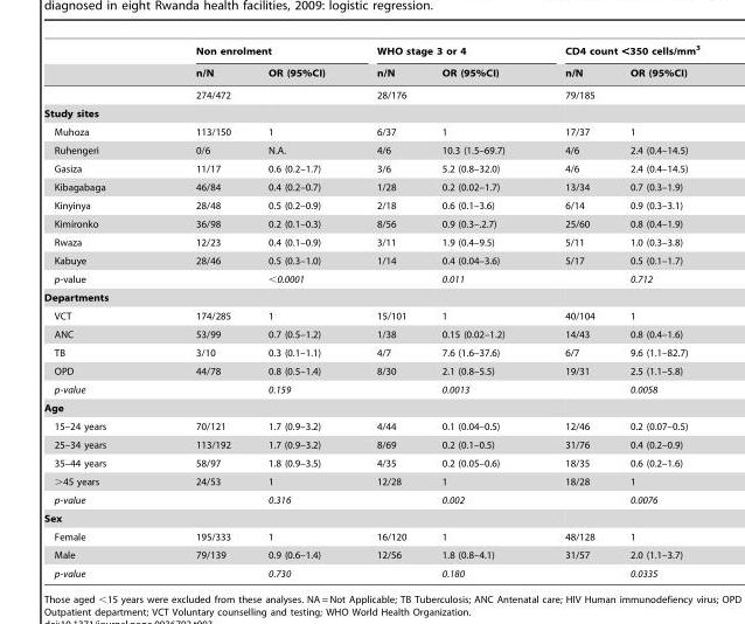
<table><thead><tr><td rowspan="2"></td><td colspan="2">Non enrolment</td><td colspan="2">WHO stage 3 or 4</td><td colspan="2">CD4 count &lt;350 cells/mm<sup>3</sup></td></tr><tr><td>n/N</td><td>OR (95%CI)</td><td>n/N</td><td>OR (95%CI)</td><td>n/N</td><td>OR (95%CI)</td></tr></thead><tbody><tr><td></td><td>274/472</td><td></td><td>28/176</td><td></td><td>79/185</td><td></td></tr><tr><td colspan="7">Study sites</td></tr><tr><td>Muhoza</td><td>113/150</td><td>1</td><td>6/37</td><td>1</td><td>17/37</td><td>1</td></tr><tr><td>Ruhengeri</td><td>0/6</td><td>N.A.</td><td>4/6</td><td>10.3 (1.5–69.7)</td><td>4/6</td><td>2.4 (0.4–14.5)</td></tr><tr><td>Gasiza</td><td>11/17</td><td>0.6 (0.2–1.7)</td><td>3/6</td><td>5.2 (0.8–32.0)</td><td>4/6</td><td>2.4 (0.4–14.5)</td></tr><tr><td>Kibagabaga</td><td>46/84</td><td>0.4 (0.2–0.7)</td><td>1/28</td><td>0.2 (0.02–1.7)</td><td>13/34</td><td>0.7 (0.3–1.9)</td></tr><tr><td>Kinyinya</td><td>28/48</td><td>0.5 (0.2–0.9)</td><td>2/18</td><td>0.6 (0.1–3.6)</td><td>6/14</td><td>0.9 (0.3–3.1)</td></tr><tr><td>Kimironko</td><td>36/98</td><td>0.2 (0.1–0.3)</td><td>8/56</td><td>0.9 (0.3–.2.7)</td><td>25/60</td><td>0.8 (0.4–1.9)</td></tr><tr><td>Rwaza</td><td>12/23</td><td>0.4 (0.1–0.9)</td><td>3/11</td><td>1.9 (0.4–9.5)</td><td>5/11</td><td>1.0 (0.3–3.8)</td></tr><tr><td>Kabuye</td><td>28/46</td><td>0.5 (0.3–1.0)</td><td>1/14</td><td>0.4 (0.04–3.6)</td><td>5/17</td><td>0.5 (0.1–1.7)</td></tr><tr><td>p-value</td><td></td><td>&lt;0.0001</td><td></td><td>0.011</td><td></td><td>0.712</td></tr><tr><td colspan="7">Departments</td></tr><tr><td>VCT</td><td>174/285</td><td>1</td><td>15/101</td><td>1</td><td>40/104</td><td>1</td></tr><tr><td>ANC</td><td>53/99</td><td>0.7 (0.5–1.2)</td><td>1/38</td><td>0.15 (0.02–1.2)</td><td>14/43</td><td>0.8 (0.4–1.6)</td></tr><tr><td>TB</td><td>3/10</td><td>0.3 (0.1–1.1)</td><td>4/7</td><td>7.6 (1.6–37.6)</td><td>6/7</td><td>9.6 (1.1–82.7)</td></tr><tr><td>OPD</td><td>44/78</td><td>0.8 (0.5–1.4)</td><td>8/30</td><td>2.1 (0.8–5.5)</td><td>19/31</td><td>2.5 (1.1–5.8)</td></tr><tr><td>p-value</td><td></td><td>0.159</td><td></td><td>0.0013</td><td></td><td>0.0058</td></tr><tr><td colspan="7">Age</td></tr><tr><td>15–24 years</td><td>70/121</td><td>1.7 (0.9–3.2)</td><td>4/44</td><td>0.1 (0.04–0.5)</td><td>12/46</td><td>0.2 (0.07–0.5)</td></tr><tr><td>25–34 years</td><td>113/192</td><td>1.7 (0.9–3.2)</td><td>8/69</td><td>0.2 (0.1–0.5)</td><td>31/76</td><td>0.4 (0.2–0.9)</td></tr><tr><td>35–44 years</td><td>58/97</td><td>1.8 (0.9–3.5)</td><td>4/35</td><td>0.2 (0.05–0.6)</td><td>18/35</td><td>0.6 (0.2–1.6)</td></tr><tr><td>&gt;45 years</td><td>24/53</td><td>1</td><td>12/28</td><td>1</td><td>18/28</td><td>1</td></tr><tr><td>p-value</td><td></td><td>0.316</td><td></td><td>0.002</td><td></td><td>0.0076</td></tr><tr><td colspan="7">Sex</td></tr><tr><td>Female</td><td>195/333</td><td>1</td><td>16/120</td><td>1</td><td>48/128</td><td>1</td></tr><tr><td>Male</td><td>79/139</td><td>0.9 (0.6–1.4)</td><td>12/56</td><td>1.8 (0.8–4.1)</td><td>31/57</td><td>2.0 (1.1–3.7)</td></tr><tr><td>p-value</td><td></td><td>0.730</td><td></td><td>0.180</td><td></td><td>0.0335</td></tr></tbody></table>